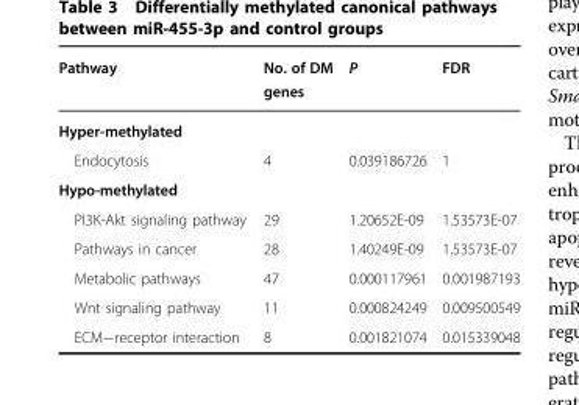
<table><thead><tr><td>Pathway</td><td>No. of DM genes</td><td>P</td><td>FDR</td></tr></thead><tbody><tr><td colspan="4">Hyper-methylated</td></tr><tr><td>Endocytosis</td><td>4</td><td>0.039186726</td><td>1</td></tr><tr><td colspan="4">Hypo-methylated</td></tr><tr><td>PI3K-Akt signaling pathway</td><td>29</td><td>1.20652E-09</td><td>1.53573E-07</td></tr><tr><td>Pathways in cancer</td><td>28</td><td>1.40249E-09</td><td>1.53573E-07</td></tr><tr><td>Metabolic pathways</td><td>47</td><td>0.000117961</td><td>0.001987193</td></tr><tr><td>Wnt signaling pathway</td><td>11</td><td>0.000824249</td><td>0.009500549</td></tr><tr><td>ECM−receptor interaction</td><td>8</td><td>0.001821074</td><td>0.015339048</td></tr></tbody></table>